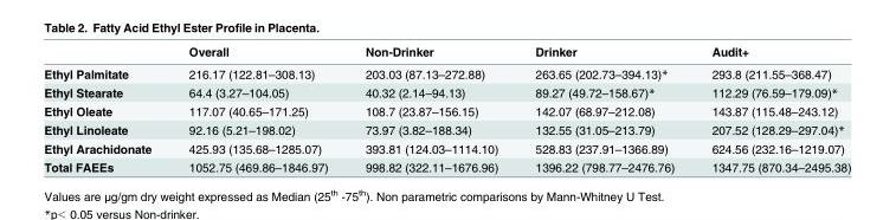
<table><thead><tr><td></td><td>Overall</td><td>Non-Drinker</td><td>Drinker</td><td>Audit+</td></tr></thead><tbody><tr><td>Ethyl Palmitate</td><td>216.17 (122.81–308.13)</td><td>203.03 (87.13–272.88)</td><td>263.65 (202.73–394.13)*</td><td>293.8 (211.55–368.47)</td></tr><tr><td>Ethyl Stearate</td><td>64.4 (3.27–104.05)</td><td>40.32 (2.14–94.13)</td><td>89.27 (49.72–158.67)*</td><td>112.29 (76.59–179.09)*</td></tr><tr><td>Ethyl Oleate</td><td>117.07 (40.65–171.25)</td><td>108.7 (23.87–156.15)</td><td>142.07 (68.97–212.08)</td><td>143.87 (115.48–243.12)</td></tr><tr><td>Ethyl Linoleate</td><td>92.16 (5.21–198.02)</td><td>73.97 (3.82–188.34)</td><td>132.55 (31.05–213.79)</td><td>207.52 (128.29–297.04)*</td></tr><tr><td>Ethyl Arachidonate</td><td>425.93 (135.68–1285.07)</td><td>393.81 (124.03–1114.10)</td><td>528.83 (237.91–1366.89)</td><td>624.56 (232.16–1219.07)</td></tr><tr><td>Total FAEEs</td><td>1052.75 (469.86–1846.97)</td><td>998.82 (322.11–1676.96)</td><td>1396.22 (798.77–2476.76)</td><td>1347.75 (870.34–2495.38)</td></tr></tbody></table>